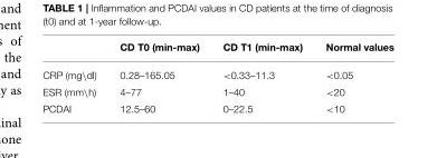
<table><thead><tr><td></td><td>CD T0 (min-max)</td><td>CD T1 (min-max)</td><td>Normal values</td></tr></thead><tbody><tr><td>CRP (mg\dl)</td><td>0.28–165.05</td><td>&lt;0.33–11.3</td><td>&lt;0.05</td></tr><tr><td>ESR (mm\h)</td><td>4–77</td><td>1–40</td><td>&lt;20</td></tr><tr><td>PCDAI</td><td>12.5–60</td><td>0–22.5</td><td>&lt;10</td></tr></tbody></table>